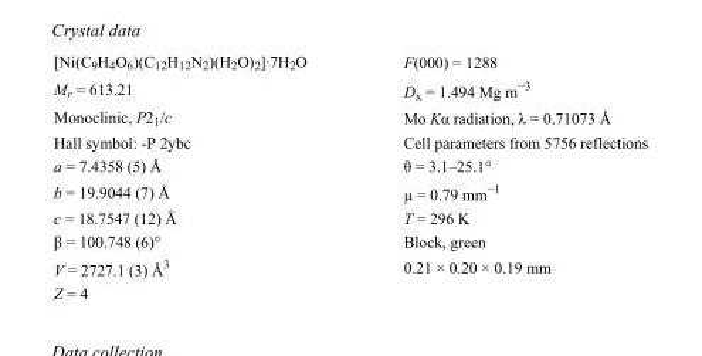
<table><tbody><tr><td>[Ni(C<sub>9</sub>H<sub>4</sub>O<sub>6</sub>)(C<sub>12</sub>H<sub>12</sub>N<sub>2</sub>)(H<sub>2</sub>O)<sub>2</sub>]·7H<sub>2</sub>O</td><td>F(000) = 1288</td></tr><tr><td>M<sub>r</sub> = 613.21</td><td>D<sub>x</sub> = 1.494 Mg m<sup>−3</sup></td></tr><tr><td>Monoclinic, P2<sub>1</sub>/c</td><td>Mo Kα radiation, λ = 0.71073 Å</td></tr><tr><td>Hall symbol: -P 2ybc</td><td>Cell parameters from 5756 reflections</td></tr><tr><td>a = 7.4358 (5) Å</td><td>θ = 3.1–25.1°</td></tr><tr><td>b = 19.9044 (7) Å</td><td>µ = 0.79 mm<sup>−1</sup></td></tr><tr><td>c = 18.7547 (12) Å</td><td>T = 296 K</td></tr><tr><td>β = 100.748 (6)°</td><td>Block, green</td></tr><tr><td>V = 2727.1 (3) Å<sup>3</sup></td><td>0.21 × 0.20 × 0.19 mm</td></tr><tr><td>Z = 4</td><td></td></tr></tbody></table>